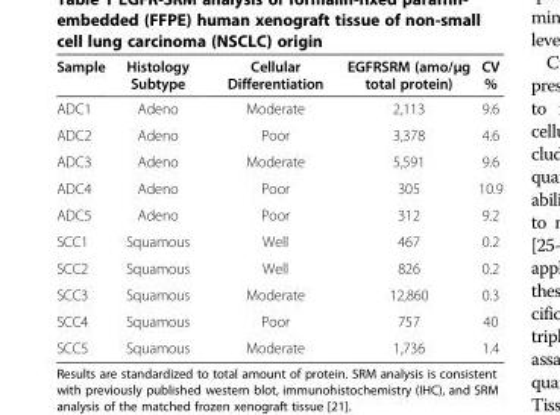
<table><thead><tr><td>Sample</td><td>Histology Subtype</td><td>Cellular Differentiation</td><td>EGFRSRM (amo/μg total protein)</td><td>CV %</td></tr></thead><tbody><tr><td>ADC1</td><td>Adeno</td><td>Moderate</td><td>2,113</td><td>9.6</td></tr><tr><td>ADC2</td><td>Adeno</td><td>Poor</td><td>3,378</td><td>4.6</td></tr><tr><td>ADC3</td><td>Adeno</td><td>Moderate</td><td>5,591</td><td>9.6</td></tr><tr><td>ADC4</td><td>Adeno</td><td>Poor</td><td>305</td><td>10.9</td></tr><tr><td>ADC5</td><td>Adeno</td><td>Poor</td><td>312</td><td>9.2</td></tr><tr><td>SCC1</td><td>Squamous</td><td>Well</td><td>467</td><td>0.2</td></tr><tr><td>SCC2</td><td>Squamous</td><td>Well</td><td>826</td><td>0.2</td></tr><tr><td>SCC3</td><td>Squamous</td><td>Moderate</td><td>12,860</td><td>0.3</td></tr><tr><td>SCC4</td><td>Squamous</td><td>Poor</td><td>757</td><td>40</td></tr><tr><td>SCC5</td><td>Squamous</td><td>Moderate</td><td>1,736</td><td>1.4</td></tr></tbody></table>